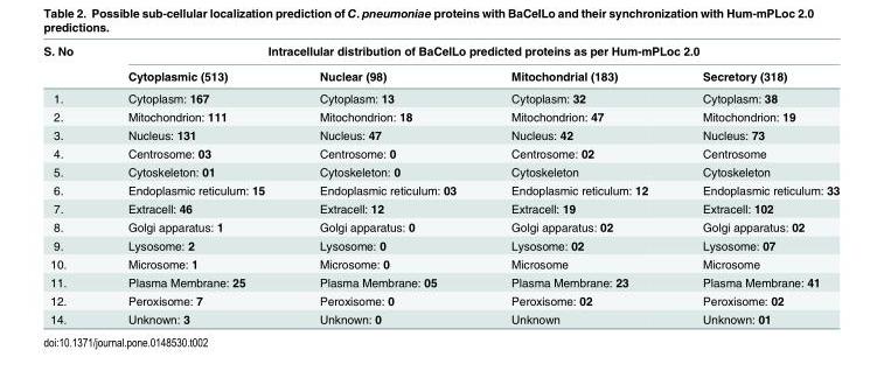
<table><thead><tr><td rowspan="2">S. No</td><td colspan="4">Intracellular distribution of BaCeILo predicted proteins as per Hum-mPLoc 2.0</td></tr><tr><td>Cytoplasmic (513)</td><td>Nuclear (98)</td><td>Mitochondrial (183)</td><td>Secretory (318)</td></tr></thead><tbody><tr><td>1.</td><td>Cytoplasm: 167</td><td>Cytoplasm: 13</td><td>Cytoplasm: 32</td><td>Cytoplasm: 38</td></tr><tr><td>2.</td><td>Mitochondrion: 111</td><td>Mitochondrion: 18</td><td>Mitochondrion: 47</td><td>Mitochondrion: 19</td></tr><tr><td>3.</td><td>Nucleus: 131</td><td>Nucleus: 47</td><td>Nucleus: 42</td><td>Nucleus: 73</td></tr><tr><td>4.</td><td>Centrosome: 03</td><td>Centrosome: 0</td><td>Centrosome: 02</td><td>Centrosome</td></tr><tr><td>5.</td><td>Cytoskeleton: 01</td><td>Cytoskeleton: 0</td><td>Cytoskeleton</td><td>Cytoskeleton</td></tr><tr><td>6.</td><td>Endoplasmic reticulum: 15</td><td>Endoplasmic reticulum: 03</td><td>Endoplasmic reticulum: 12</td><td>Endoplasmic reticulum: 33</td></tr><tr><td>7.</td><td>Extracell: 46</td><td>Extracell: 12</td><td>Extracell: 19</td><td>Extracell: 102</td></tr><tr><td>8.</td><td>Golgi apparatus: 1</td><td>Golgi apparatus: 0</td><td>Golgi apparatus: 02</td><td>Golgi apparatus: 02</td></tr><tr><td>9.</td><td>Lysosome: 2</td><td>Lysosome: 0</td><td>Lysosome: 02</td><td>Lysosome: 07</td></tr><tr><td>10.</td><td>Microsome: 1</td><td>Microsome: 0</td><td>Microsome</td><td>Microsome</td></tr><tr><td>11.</td><td>Plasma Membrane: 25</td><td>Plasma Membrane: 05</td><td>Plasma Membrane: 23</td><td>Plasma Membrane: 41</td></tr><tr><td>12.</td><td>Peroxisome: 7</td><td>Peroxisome: 0</td><td>Peroxisome: 02</td><td>Peroxisome: 02</td></tr><tr><td>14.</td><td>Unknown: 3</td><td>Unknown: 0</td><td>Unknown</td><td>Unknown: 01</td></tr></tbody></table>